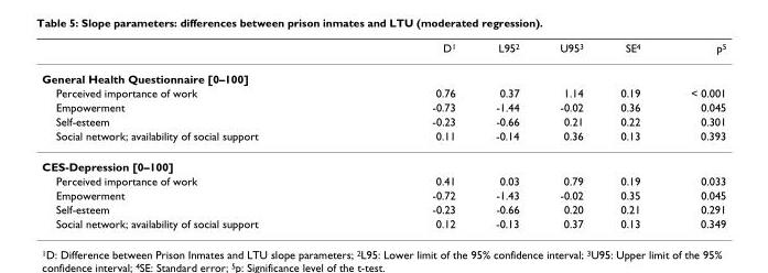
<table><thead><tr><td></td><td>D<sup>1</sup></td><td>L95<sup>2</sup></td><td>U95<sup>3</sup></td><td>SE<sup>4</sup></td><td>p<sup>5</sup></td></tr></thead><tbody><tr><td colspan="6">General Health Questionnaire [0–100]</td></tr><tr><td>Perceived importance of work</td><td>0.76</td><td>0.37</td><td>1.14</td><td>0.19</td><td>&lt; 0.001</td></tr><tr><td>Empowerment</td><td>-0.73</td><td>-1.44</td><td>-0.02</td><td>0.36</td><td>0.045</td></tr><tr><td>Self-esteem</td><td>-0.23</td><td>-0.66</td><td>0.21</td><td>0.22</td><td>0.301</td></tr><tr><td>Social network; availability of social support</td><td>0.11</td><td>-0.14</td><td>0.36</td><td>0.13</td><td>0.393</td></tr><tr><td colspan="6">CES-Depression [0–100]</td></tr><tr><td>Perceived importance of work</td><td>0.41</td><td>0.03</td><td>0.79</td><td>0.19</td><td>0.033</td></tr><tr><td>Empowerment</td><td>-0.72</td><td>-1.43</td><td>-0.02</td><td>0.35</td><td>0.045</td></tr><tr><td>Self-esteem</td><td>-0.23</td><td>-0.66</td><td>0.20</td><td>0.21</td><td>0.291</td></tr><tr><td>Social network; availability of social support</td><td>0.12</td><td>-0.13</td><td>0.37</td><td>0.13</td><td>0.349</td></tr></tbody></table>